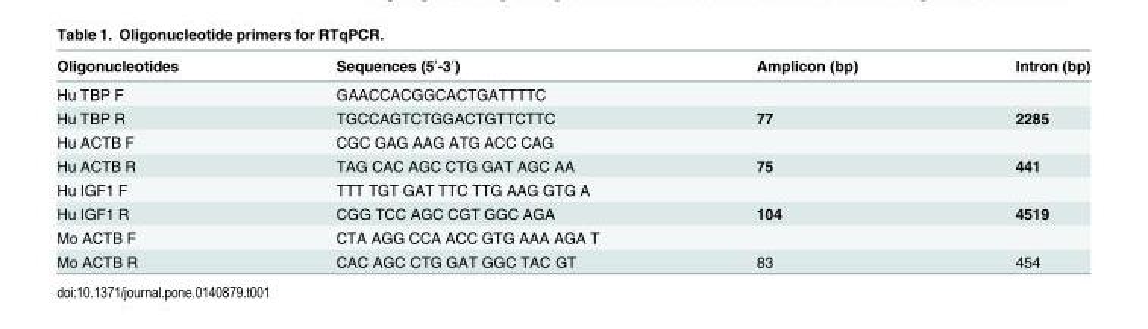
<table><thead><tr><td>Oligonucleotides</td><td>Sequences (5′‐3′)</td><td>Amplicon (bp)</td><td>Intron (bp)</td></tr></thead><tbody><tr><td>Hu TBP F</td><td>GAACCACGGCACTGATTTTC</td><td></td><td></td></tr><tr><td>Hu TBP R</td><td>TGCCAGTCTGGACTGTTCTTC</td><td>77</td><td>2285</td></tr><tr><td>Hu ACTB F</td><td>CGC GAG AAG ATG ACC CAG</td><td></td><td></td></tr><tr><td>Hu ACTB R</td><td>TAG CAC AGC CTG GAT AGC AA</td><td>75</td><td>441</td></tr><tr><td>Hu IGF1 F</td><td>TTT TGT GAT TTC TTG AAG GTG A</td><td></td><td></td></tr><tr><td>Hu IGF1 R</td><td>CGG TCC AGC CGT GGC AGA</td><td>104</td><td>4519</td></tr><tr><td>Mo ACTB F</td><td>CTA AGG CCA ACC GTG AAA AGA T</td><td></td><td></td></tr><tr><td>Mo ACTB R</td><td>CAC AGC CTG GAT GGC TAC GT</td><td>83</td><td>454</td></tr></tbody></table>